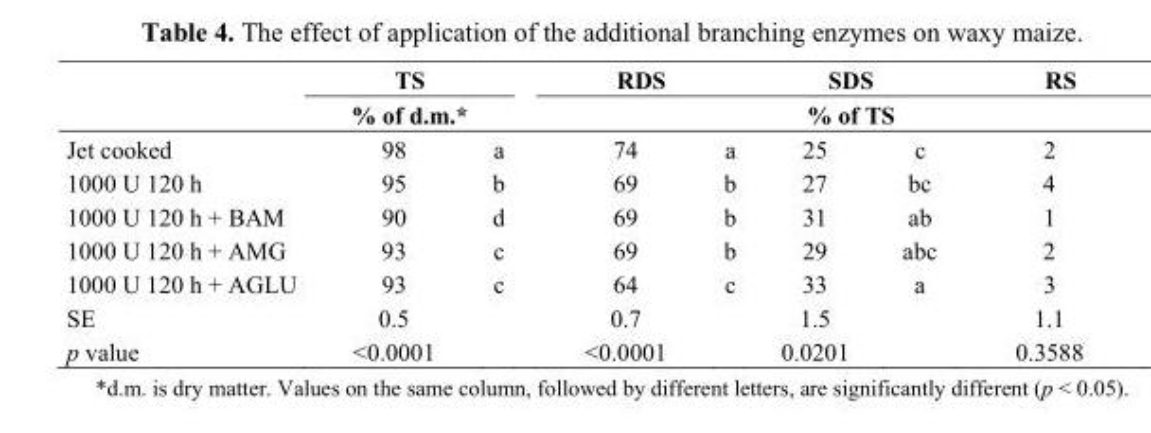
<table><thead><tr><td rowspan="3">Jet cooked</td><td rowspan="2" colspan="2">TS % of d.m.*</td><td colspan="2">RDS</td><td colspan="2">SDS</td><td>RS</td></tr><tr><td colspan="5">% of TS</td></tr><tr><td>98</td><td>a</td><td>74</td><td>a</td><td>25</td><td>c</td><td>2</td></tr></thead><tbody><tr><td>1000 U 120 h</td><td>95</td><td>b</td><td>69</td><td>b</td><td>27</td><td>bc</td><td>4</td></tr><tr><td>1000 U 120 h + BAM</td><td>90</td><td>d</td><td>69</td><td>b</td><td>31</td><td>ab</td><td>1</td></tr><tr><td>1000 U 120 h + AMG</td><td>93</td><td>c</td><td>69</td><td>b</td><td>29</td><td>abc</td><td>2</td></tr><tr><td>1000 U 120 h + AGLU</td><td>93</td><td>c</td><td>64</td><td>c</td><td>33</td><td>a</td><td>3</td></tr><tr><td>SE</td><td>0.5</td><td></td><td>0.7</td><td></td><td>1.5</td><td></td><td>1.1</td></tr><tr><td>p value</td><td>&lt;0.0001</td><td></td><td>&lt;0.0001</td><td></td><td>0.0201</td><td></td><td>0.3588</td></tr></tbody></table>